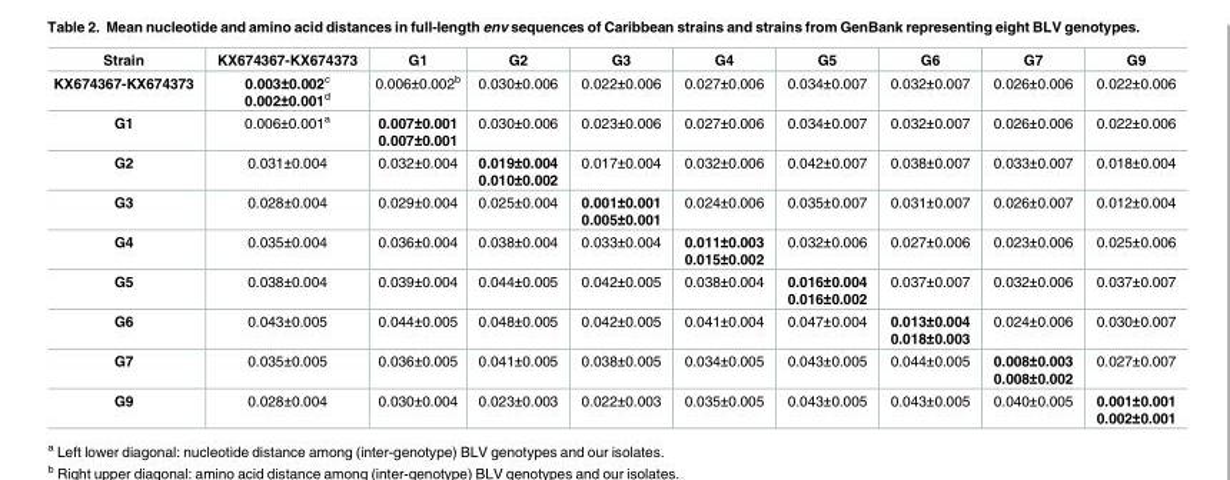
<table><thead><tr><td>Strain</td><td>KX674367-KX674373</td><td>G1</td><td>G2</td><td>G3</td><td>G4</td><td>G5</td><td>G6</td><td>G7</td><td>G9</td></tr></thead><tbody><tr><td>KX674367-KX674373</td><td>0.003±0.002<sup>c</sup> 0.002±0.001<sup>d</sup></td><td>0.006±0.002<sup>b</sup></td><td>0.030±0.006</td><td>0.022±0.006</td><td>0.027±0.006</td><td>0.034±0.007</td><td>0.032±0.007</td><td>0.026±0.006</td><td>0.022±0.006</td></tr><tr><td>G1</td><td>0.006±0.001<sup>a</sup></td><td>0.007±0.001 0.007±0.001</td><td>0.030±0.006</td><td>0.023±0.006</td><td>0.027±0.006</td><td>0.034±0.007</td><td>0.032±0.007</td><td>0.026±0.006</td><td>0.022±0.006</td></tr><tr><td>G2</td><td>0.031±0.004</td><td>0.032±0.004</td><td>0.019±0.004 0.010±0.002</td><td>0.017±0.004</td><td>0.032±0.006</td><td>0.042±0.007</td><td>0.038±0.007</td><td>0.033±0.007</td><td>0.018±0.004</td></tr><tr><td>G3</td><td>0.028±0.004</td><td>0.029±0.004</td><td>0.025±0.004</td><td>0.001±0.001 0.005±0.001</td><td>0.024±0.006</td><td>0.035±0.007</td><td>0.031±0.007</td><td>0.026±0.007</td><td>0.012±0.004</td></tr><tr><td>G4</td><td>0.035±0.004</td><td>0.036±0.004</td><td>0.038±0.004</td><td>0.033±0.004</td><td>0.011±0.003 0.015±0.002</td><td>0.032±0.006</td><td>0.027±0.006</td><td>0.023±0.006</td><td>0.025±0.006</td></tr><tr><td>G5</td><td>0.038±0.004</td><td>0.039±0.004</td><td>0.044±0.005</td><td>0.042±0.005</td><td>0.038±0.004</td><td>0.016±0.004 0.016±0.002</td><td>0.037±0.007</td><td>0.032±0.006</td><td>0.037±0.007</td></tr><tr><td>G6</td><td>0.043±0.005</td><td>0.044±0.005</td><td>0.048±0.005</td><td>0.042±0.005</td><td>0.041±0.004</td><td>0.047±0.004</td><td>0.013±0.004 0.018±0.003</td><td>0.024±0.006</td><td>0.030±0.007</td></tr><tr><td>G7</td><td>0.035±0.005</td><td>0.036±0.005</td><td>0.041±0.005</td><td>0.038±0.005</td><td>0.034±0.005</td><td>0.043±0.005</td><td>0.044±0.005</td><td>0.008±0.003 0.008±0.002</td><td>0.027±0.007</td></tr><tr><td>G9</td><td>0.028±0.004</td><td>0.030±0.004</td><td>0.023±0.003</td><td>0.022±0.003</td><td>0.035±0.005</td><td>0.043±0.005</td><td>0.043±0.005</td><td>0.040±0.005</td><td>0.001±0.001 0.002±0.001</td></tr></tbody></table>